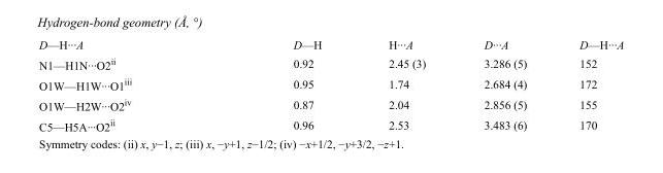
<table><tbody><tr><td>D—H···A</td><td>D—H</td><td>H···A</td><td>D···A</td><td>D—H···A</td></tr><tr><td>N1—H1N···O2<sup>ii</sup></td><td>0.92</td><td>2.45 (3)</td><td>3.286 (5)</td><td>152</td></tr><tr><td>O1W—H1W···O1<sup>iii</sup></td><td>0.95</td><td>1.74</td><td>2.684 (4)</td><td>172</td></tr><tr><td>O1W—H2W···O2<sup>iv</sup></td><td>0.87</td><td>2.04</td><td>2.856 (5)</td><td>155</td></tr><tr><td>C5—H5A···O2<sup>ii</sup></td><td>0.96</td><td>2.53</td><td>3.483 (6)</td><td>170</td></tr></tbody></table>